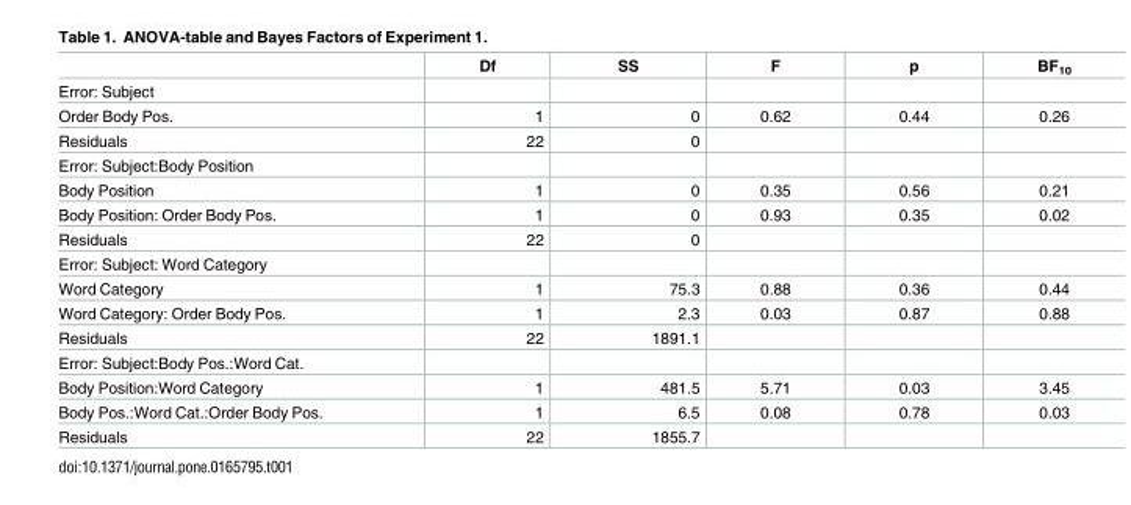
<table><thead><tr><td></td><td>Df</td><td>SS</td><td>F</td><td>p</td><td>BF<sub>10</sub></td></tr></thead><tbody><tr><td colspan="6">Error: Subject</td></tr><tr><td>Order Body Pos.</td><td>1</td><td>0</td><td>0.62</td><td>0.44</td><td>0.26</td></tr><tr><td>Residuals</td><td>22</td><td>0</td><td></td><td></td><td></td></tr><tr><td colspan="6">Error: Subject:Body Position</td></tr><tr><td>Body Position</td><td>1</td><td>0</td><td>0.35</td><td>0.56</td><td>0.21</td></tr><tr><td>Body Position: Order Body Pos.</td><td>1</td><td>0</td><td>0.93</td><td>0.35</td><td>0.02</td></tr><tr><td>Residuals</td><td>22</td><td>0</td><td></td><td></td><td></td></tr><tr><td colspan="6">Error: Subject: Word Category</td></tr><tr><td>Word Category</td><td>1</td><td>75.3</td><td>0.88</td><td>0.36</td><td>0.44</td></tr><tr><td>Word Category: Order Body Pos.</td><td>1</td><td>2.3</td><td>0.03</td><td>0.87</td><td>0.88</td></tr><tr><td>Residuals</td><td>22</td><td>1891.1</td><td></td><td></td><td></td></tr><tr><td colspan="6">Error: Subject:Body Pos.:Word Cat.</td></tr><tr><td>Body Position:Word Category</td><td>1</td><td>481.5</td><td>5.71</td><td>0.03</td><td>3.45</td></tr><tr><td>Body Pos.:Word Cat.:Order Body Pos.</td><td>1</td><td>6.5</td><td>0.08</td><td>0.78</td><td>0.03</td></tr><tr><td>Residuals</td><td>22</td><td>1855.7</td><td></td><td></td><td></td></tr></tbody></table>